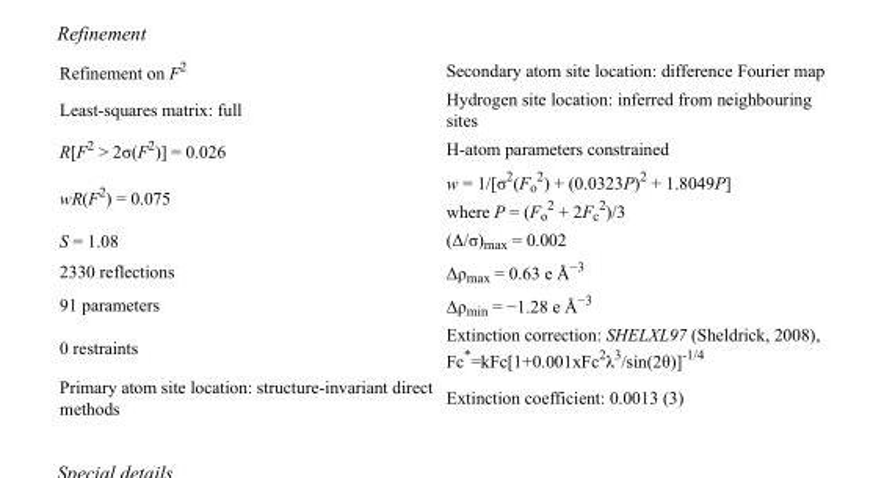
<table><tbody><tr><td>Refinement on F<sup>2</sup></td><td>Secondary atom site location: difference Fourier map</td></tr><tr><td>Least-squares matrix: full</td><td>Hydrogen site location: inferred from neighbouring sites</td></tr><tr><td>R[F<sup>2</sup> &gt; 2σ(F<sup>2</sup>)] = 0.026</td><td>H-atom parameters constrained</td></tr><tr><td>wR(F<sup>2</sup>) = 0.075</td><td>w = 1/[σ<sup>2</sup>(F<sub>o</sub> <sup>2</sup>) + (0.0323P)<sup>2</sup> + 1.8049P] where P = (F<sub>o</sub> <sup>2</sup> + 2F<sub>c</sub> <sup>2</sup>)/3</td></tr><tr><td>S = 1.08</td><td>(Δ/σ)<sub>max</sub> = 0.002</td></tr><tr><td>2330 reflections</td><td>Δρ<sub>max</sub> = 0.63 e Å<sup>−3</sup></td></tr><tr><td>91 parameters</td><td>Δρ<sub>min</sub> = −1.28 e Å<sup>−3</sup></td></tr><tr><td>0 restraints</td><td>Extinction correction: SHELXL97 (Sheldrick, 2008), Fc*=kFc[1+0.001xFc<sup>2</sup>λ<sup>3</sup>/sin(2θ)]<sup>-1/4</sup></td></tr><tr><td>Primary atom site location: structure-invariant direct methods</td><td>Extinction coefficient: 0.0013 (3)</td></tr></tbody></table>